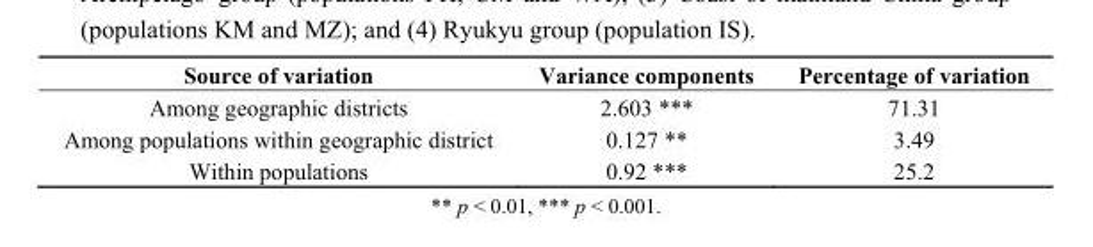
<table><thead><tr><td>Source of variation</td><td>Variance components</td><td>Percentage of variation</td></tr></thead><tbody><tr><td>Among geographic districts</td><td>2.603 ***</td><td>71.31</td></tr><tr><td>Among populations within geographic district</td><td>0.127 **</td><td>3.49</td></tr><tr><td>Within populations</td><td>0.92 ***</td><td>25.2</td></tr></tbody></table>